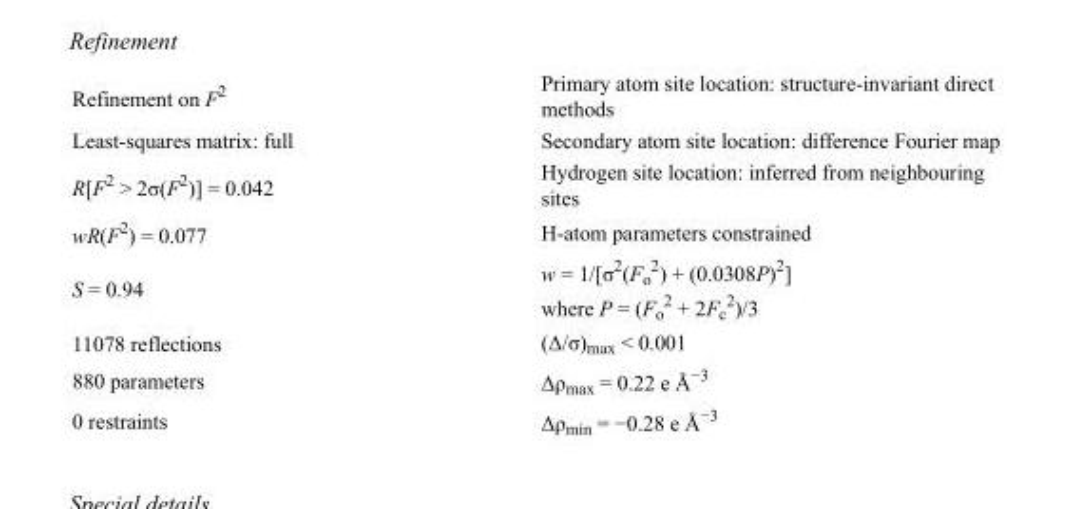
<table><tbody><tr><td>Refinement on F<sup>2</sup></td><td>Primary atom site location: structure-invariant direct methods</td></tr><tr><td>Least-squares matrix: full</td><td>Secondary atom site location: difference Fourier map</td></tr><tr><td>R[F<sup>2</sup> &gt; 2σ(F<sup>2</sup>)] = 0.042</td><td>Hydrogen site location: inferred from neighbouring sites</td></tr><tr><td>wR(F<sup>2</sup>) = 0.077</td><td>H-atom parameters constrained</td></tr><tr><td>S = 0.94</td><td>w = 1/[σ<sup>2</sup>(F<sub>o</sub> <sup>2</sup>) + (0.0308P)<sup>2</sup>] where P = (F<sub>o</sub> <sup>2</sup> + 2F<sub>c</sub> <sup>2</sup>)/3</td></tr><tr><td>11078 reflections</td><td>(Δ/σ)<sub>max</sub> &lt; 0.001</td></tr><tr><td>880 parameters</td><td>Δρ<sub>max</sub> = 0.22 e Å<sup>−3</sup></td></tr><tr><td>0 restraints</td><td>Δρ<sub>min</sub> = −0.28 e Å<sup>−3</sup></td></tr></tbody></table>